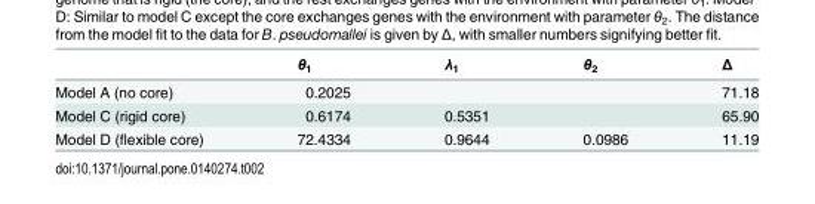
<table><thead><tr><td></td><td>θ<sub>1</sub></td><td>λ<sub>1</sub></td><td>θ<sub>2</sub></td><td>Δ</td></tr></thead><tbody><tr><td>Model A (no core)</td><td>0.2025</td><td></td><td></td><td>71.18</td></tr><tr><td>Model C (rigid core)</td><td>0.6174</td><td>0.5351</td><td></td><td>65.90</td></tr><tr><td>Model D (flexible core)</td><td>72.4334</td><td>0.9644</td><td>0.0986</td><td>11.19</td></tr></tbody></table>